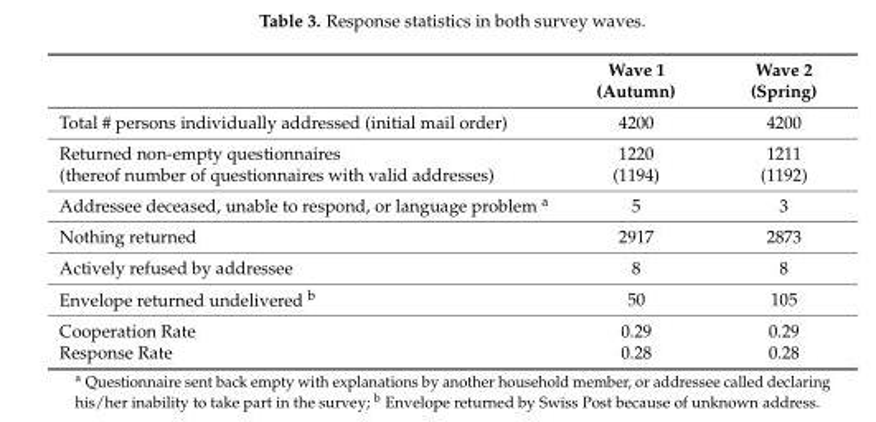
<table><thead><tr><td></td><td>Wave 1 (Autumn)</td><td>Wave 2 (Spring)</td></tr></thead><tbody><tr><td>Total # persons individually addressed (initial mail order)</td><td>4200</td><td>4200</td></tr><tr><td>Returned non-empty questionnaires</td><td>1220</td><td>1211</td></tr><tr><td>(thereof number of questionnaires with valid addresses)</td><td>(1194)</td><td>(1192)</td></tr><tr><td>Addressee deceased, unable to respond, or language problem <sup>a</sup></td><td>5</td><td>3</td></tr><tr><td>Nothing returned</td><td>2917</td><td>2873</td></tr><tr><td>Actively refused by addressee</td><td>8</td><td>8</td></tr><tr><td>Envelope returned undelivered <sup>b</sup></td><td>50</td><td>105</td></tr><tr><td>Cooperation Rate</td><td>0.29</td><td>0.29</td></tr><tr><td>Response Rate</td><td>0.28</td><td>0.28</td></tr></tbody></table>